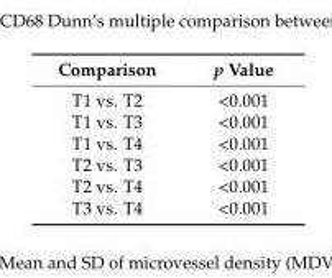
<table><thead><tr><td>Comparison</td><td>p Value</td></tr></thead><tbody><tr><td>T1 vs. T2</td><td>&lt;0.001</td></tr><tr><td>T1 vs. T3</td><td>&lt;0.001</td></tr><tr><td>T1 vs. T4</td><td>&lt;0.001</td></tr><tr><td>T2 vs. T3</td><td>&lt;0.001</td></tr><tr><td>T2 vs. T4</td><td>&lt;0.001</td></tr><tr><td>T3 vs. T4</td><td>&lt;0.001</td></tr></tbody></table>